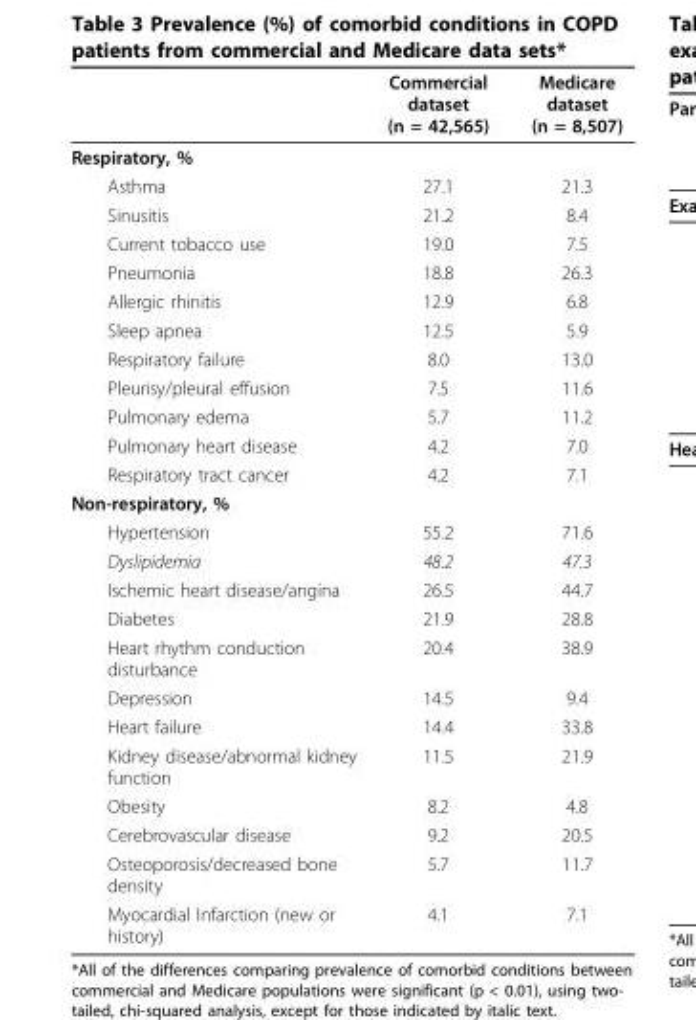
<table><thead><tr><td></td><td>Commercial dataset (n = 42,565)</td><td>Medicare dataset (n = 8,507)</td></tr></thead><tbody><tr><td colspan="3">Respiratory, %</td></tr><tr><td>Asthma</td><td>27.1</td><td>21.3</td></tr><tr><td>Sinusitis</td><td>21.2</td><td>8.4</td></tr><tr><td>Current tobacco use</td><td>19.0</td><td>7.5</td></tr><tr><td>Pneumonia</td><td>18.8</td><td>26.3</td></tr><tr><td>Allergic rhinitis</td><td>12.9</td><td>6.8</td></tr><tr><td>Sleep apnea</td><td>12.5</td><td>5.9</td></tr><tr><td>Respiratory failure</td><td>8.0</td><td>13.0</td></tr><tr><td>Pleurisy/pleural effusion</td><td>7.5</td><td>11.6</td></tr><tr><td>Pulmonary edema</td><td>5.7</td><td>11.2</td></tr><tr><td>Pulmonary heart disease</td><td>4.2</td><td>7.0</td></tr><tr><td>Respiratory tract cancer</td><td>4.2</td><td>7.1</td></tr><tr><td colspan="3">Non-respiratory, %</td></tr><tr><td>Hypertension</td><td>55.2</td><td>71.6</td></tr><tr><td>Dyslipidemia</td><td>48.2</td><td>47.3</td></tr><tr><td>Ischemic heart disease/angina</td><td>26.5</td><td>44.7</td></tr><tr><td>Diabetes</td><td>21.9</td><td>28.8</td></tr><tr><td>Heart rhythm conduction disturbance</td><td>20.4</td><td>38.9</td></tr><tr><td>Depression</td><td>14.5</td><td>9.4</td></tr><tr><td>Heart failure</td><td>14.4</td><td>33.8</td></tr><tr><td>Kidney disease/abnormal kidney function</td><td>11.5</td><td>21.9</td></tr><tr><td>Obesity</td><td>8.2</td><td>4.8</td></tr><tr><td>Cerebrovascular disease</td><td>9.2</td><td>20.5</td></tr><tr><td>Osteoporosis/decreased bone density</td><td>5.7</td><td>11.7</td></tr><tr><td>Myocardial Infarction (new or history)</td><td>4.1</td><td>7.1</td></tr></tbody></table>